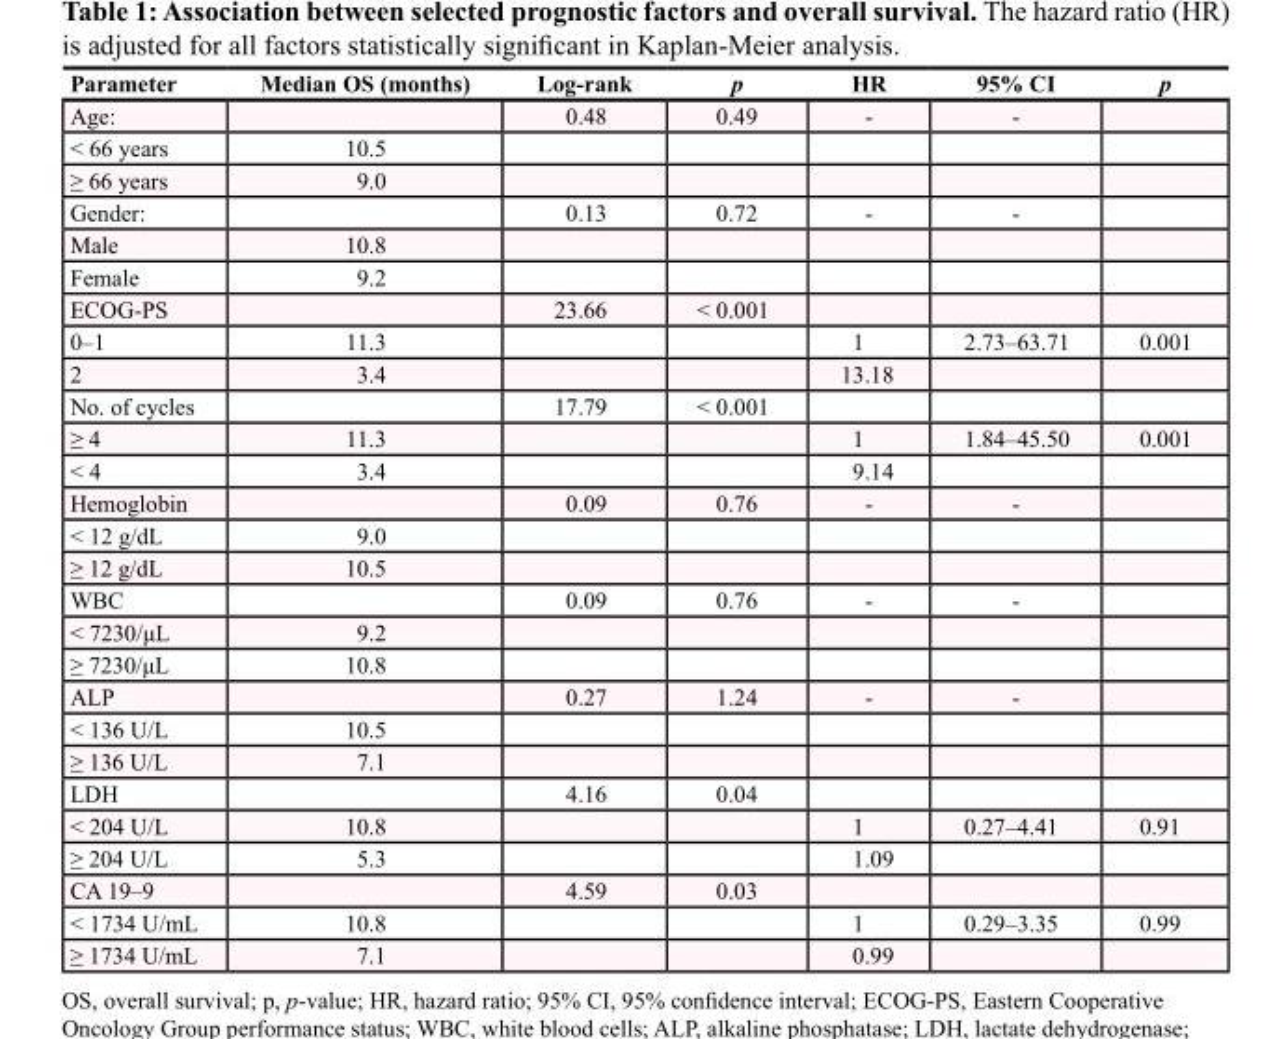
<table><thead><tr><td>Parameter</td><td>Median OS (months)</td><td>Log-rank</td><td>p</td><td>HR</td><td>95% CI</td><td>p</td></tr></thead><tbody><tr><td>Age:</td><td></td><td>0.48</td><td>0.49</td><td>-</td><td>-</td><td></td></tr><tr><td>&lt; 66 years</td><td>10.5</td><td></td><td></td><td></td><td></td><td></td></tr><tr><td>≥ 66 years</td><td>9.0</td><td></td><td></td><td></td><td></td><td></td></tr><tr><td>Gender:</td><td></td><td>0.13</td><td>0.72</td><td>-</td><td>-</td><td></td></tr><tr><td>Male</td><td>10.8</td><td></td><td></td><td></td><td></td><td></td></tr><tr><td>Female</td><td>9.2</td><td></td><td></td><td></td><td></td><td></td></tr><tr><td>ECOG-PS</td><td></td><td>23.66</td><td>&lt; 0.001</td><td></td><td></td><td></td></tr><tr><td>0–1</td><td>11.3</td><td></td><td></td><td>1</td><td>2.73–63.71</td><td>0.001</td></tr><tr><td>2</td><td>3.4</td><td></td><td></td><td>13.18</td><td></td><td></td></tr><tr><td>No. of cycles</td><td></td><td>17.79</td><td>&lt; 0.001</td><td></td><td></td><td></td></tr><tr><td>≥ 4</td><td>11.3</td><td></td><td></td><td>1</td><td>1.84–45.50</td><td>0.001</td></tr><tr><td>&lt; 4</td><td>3.4</td><td></td><td></td><td>9.14</td><td></td><td></td></tr><tr><td>Hemoglobin</td><td></td><td>0.09</td><td>0.76</td><td>-</td><td>-</td><td></td></tr><tr><td>&lt; 12 g/dL</td><td>9.0</td><td></td><td></td><td></td><td></td><td></td></tr><tr><td>≥ 12 g/dL</td><td>10.5</td><td></td><td></td><td></td><td></td><td></td></tr><tr><td>WBC</td><td></td><td>0.09</td><td>0.76</td><td>-</td><td>-</td><td></td></tr><tr><td>&lt; 7230/μL</td><td>9.2</td><td></td><td></td><td></td><td></td><td></td></tr><tr><td>≥ 7230/μL</td><td>10.8</td><td></td><td></td><td></td><td></td><td></td></tr><tr><td>ALP</td><td></td><td>0.27</td><td>1.24</td><td>-</td><td>-</td><td></td></tr><tr><td>&lt; 136 U/L</td><td>10.5</td><td></td><td></td><td></td><td></td><td></td></tr><tr><td>≥ 136 U/L</td><td>7.1</td><td></td><td></td><td></td><td></td><td></td></tr><tr><td>LDH</td><td></td><td>4.16</td><td>0.04</td><td></td><td></td><td></td></tr><tr><td>&lt; 204 U/L</td><td>10.8</td><td></td><td></td><td>1</td><td>0.27–4.41</td><td>0.91</td></tr><tr><td>≥ 204 U/L</td><td>5.3</td><td></td><td></td><td>1.09</td><td></td><td></td></tr><tr><td>CA 19–9</td><td></td><td>4.59</td><td>0.03</td><td></td><td></td><td></td></tr><tr><td>&lt; 1734 U/mL</td><td>10.8</td><td></td><td></td><td>1</td><td>0.29–3.35</td><td>0.99</td></tr><tr><td>≥ 1734 U/mL</td><td>7.1</td><td></td><td></td><td>0.99</td><td></td><td></td></tr></tbody></table>